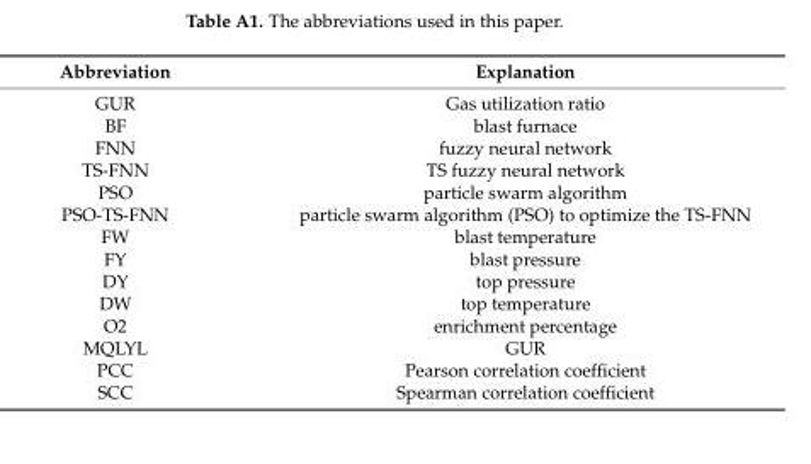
<table><thead><tr><td>Abbreviation</td><td>Explanation</td></tr></thead><tbody><tr><td>GUR</td><td>Gas utilization ratio</td></tr><tr><td>BF</td><td>blast furnace</td></tr><tr><td>FNN</td><td>fuzzy neural network</td></tr><tr><td>TS-FNN</td><td>TS fuzzy neural network</td></tr><tr><td>PSO</td><td>particle swarm algorithm</td></tr><tr><td>PSO-TS-FNN</td><td>particle swarm algorithm (PSO) to optimize the TS-FNN</td></tr><tr><td>FW</td><td>blast temperature</td></tr><tr><td>FY</td><td>blast pressure</td></tr><tr><td>DY</td><td>top pressure</td></tr><tr><td>DW</td><td>top temperature</td></tr><tr><td>O2</td><td>enrichment percentage</td></tr><tr><td>MQLYL</td><td>GUR</td></tr><tr><td>PCC</td><td>Pearson correlation coefficient</td></tr><tr><td>SCC</td><td>Spearman correlation coefficient</td></tr></tbody></table>